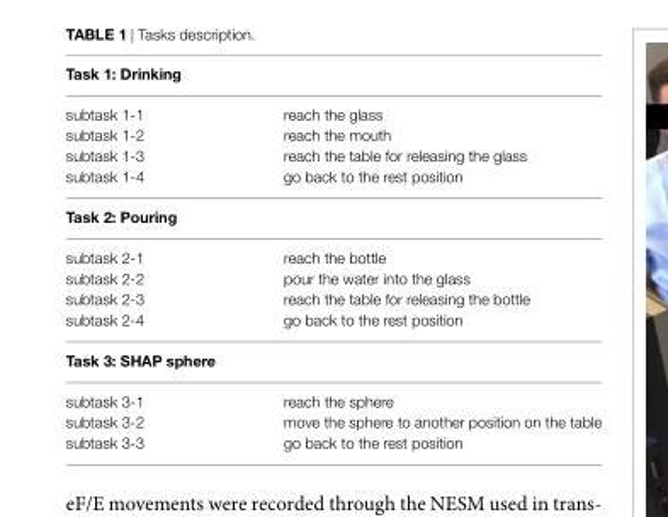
<table><thead><tr><td colspan="2">Task 1: Drinking</td></tr><tr><td>subtask 1-1</td><td>reach the glass</td></tr></thead><tbody><tr><td>subtask 1-2</td><td>reach the mouth</td></tr><tr><td>subtask 1-3</td><td>reach the table for releasing the glass</td></tr><tr><td>subtask 1-4</td><td>go back to the rest position</td></tr><tr><td colspan="2">Task 2: Pouring</td></tr><tr><td>subtask 2-1</td><td>reach the bottle</td></tr><tr><td>subtask 2-2</td><td>pour the water into the glass</td></tr><tr><td>subtask 2-3</td><td>reach the table for releasing the bottle</td></tr><tr><td>subtask 2-4</td><td>go back to the rest position</td></tr><tr><td colspan="2">Task 3: SHAP sphere</td></tr><tr><td>subtask 3-1</td><td>reach the sphere</td></tr><tr><td>subtask 3-2</td><td>move the sphere to another position on the table</td></tr><tr><td>subtask 3-3</td><td>go back to the rest position</td></tr></tbody></table>